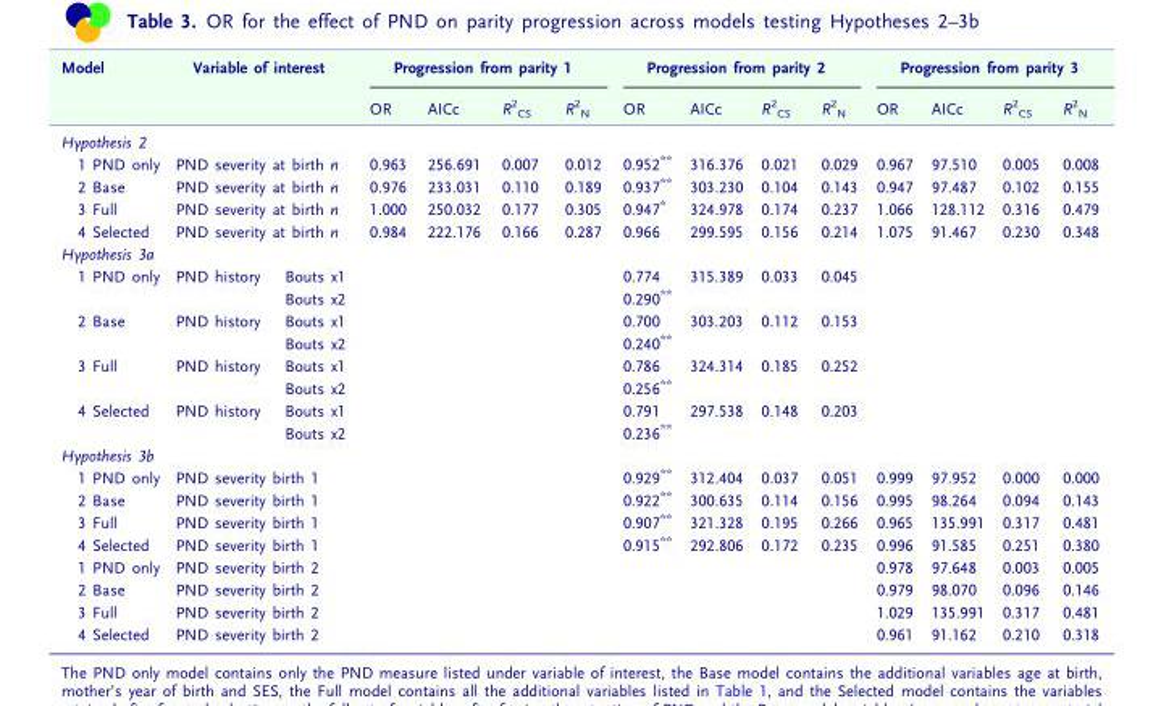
<table><thead><tr><td rowspan="2">Model</td><td rowspan="2" colspan="2">Variable of interest</td><td colspan="4">Progression from parity 1</td><td colspan="4">Progression from parity 2</td><td colspan="4">Progression from parity 3</td></tr><tr><td>OR</td><td>AICc</td><td>R<sup>2</sup> <sub>CS</sub></td><td>R<sup>2</sup> <sub>N</sub></td><td>OR</td><td>AICc</td><td>R<sup>2</sup> <sub>CS</sub></td><td>R<sup>2</sup> <sub>N</sub></td><td>OR</td><td>AICc</td><td>R<sup>2</sup> <sub>CS</sub></td><td>R<sup>2</sup> <sub>N</sub></td></tr></thead><tbody><tr><td colspan="15">Hypothesis 2</td></tr><tr><td>1 PND only</td><td colspan="2">PND severity at birth n</td><td>0.963</td><td>256.691</td><td>0.007</td><td>0.012</td><td>0.952**</td><td>316.376</td><td>0.021</td><td>0.029</td><td>0.967</td><td>97.510</td><td>0.005</td><td>0.008</td></tr><tr><td>2 Base</td><td colspan="2">PND severity at birth n</td><td>0.976</td><td>233.031</td><td>0.110</td><td>0.189</td><td>0.937**</td><td>303.230</td><td>0.104</td><td>0.143</td><td>0.947</td><td>97.487</td><td>0.102</td><td>0.155</td></tr><tr><td>3 Full</td><td colspan="2">PND severity at birth n</td><td>1.000</td><td>250.032</td><td>0.177</td><td>0.305</td><td>0.947*</td><td>324.978</td><td>0.174</td><td>0.237</td><td>1.066</td><td>128.112</td><td>0.316</td><td>0.479</td></tr><tr><td>4 Selected</td><td colspan="2">PND severity at birth n</td><td>0.984</td><td>222.176</td><td>0.166</td><td>0.287</td><td>0.966</td><td>299.595</td><td>0.156</td><td>0.214</td><td>1.075</td><td>91.467</td><td>0.230</td><td>0.348</td></tr><tr><td colspan="15">Hypothesis 3a</td></tr><tr><td rowspan="2">1 PND only</td><td rowspan="2">PND history</td><td>Bouts x1</td><td></td><td></td><td></td><td></td><td>0.774</td><td rowspan="2">315.389</td><td rowspan="2">0.033</td><td rowspan="2">0.045</td><td></td><td></td><td></td><td></td></tr><tr><td>Bouts x2</td><td></td><td></td><td></td><td></td><td>0.290**</td><td></td><td></td><td></td><td></td></tr><tr><td rowspan="2">2 Base</td><td rowspan="2">PND history</td><td>Bouts x1</td><td></td><td></td><td></td><td></td><td>0.700</td><td rowspan="2">303.203</td><td rowspan="2">0.112</td><td rowspan="2">0.153</td><td></td><td></td><td></td><td></td></tr><tr><td>Bouts x2</td><td></td><td></td><td></td><td></td><td>0.240**</td><td></td><td></td><td></td><td></td></tr><tr><td rowspan="2">3 Full</td><td rowspan="2">PND history</td><td>Bouts x1</td><td></td><td></td><td></td><td></td><td>0.786</td><td rowspan="2">324.314</td><td rowspan="2">0.185</td><td rowspan="2">0.252</td><td></td><td></td><td></td><td></td></tr><tr><td>Bouts x2</td><td></td><td></td><td></td><td></td><td>0.256**</td><td></td><td></td><td></td><td></td></tr><tr><td rowspan="2">4 Selected</td><td rowspan="2">PND history</td><td>Bouts x1</td><td></td><td></td><td></td><td></td><td>0.791</td><td rowspan="2">297.538</td><td rowspan="2">0.148</td><td rowspan="2">0.203</td><td></td><td></td><td></td><td></td></tr><tr><td>Bouts x2</td><td></td><td></td><td></td><td></td><td>0.236**</td><td></td><td></td><td></td><td></td></tr><tr><td colspan="15">Hypothesis 3b</td></tr><tr><td>1 PND only</td><td colspan="2">PND severity birth 1</td><td></td><td></td><td></td><td></td><td>0.929**</td><td>312.404</td><td>0.037</td><td>0.051</td><td>0.999</td><td>97.952</td><td>0.000</td><td>0.000</td></tr><tr><td>2 Base</td><td colspan="2">PND severity birth 1</td><td></td><td></td><td></td><td></td><td>0.922**</td><td>300.635</td><td>0.114</td><td>0.156</td><td>0.995</td><td>98.264</td><td>0.094</td><td>0.143</td></tr><tr><td>3 Full</td><td colspan="2">PND severity birth 1</td><td></td><td></td><td></td><td></td><td>0.907**</td><td>321.328</td><td>0.195</td><td>0.266</td><td>0.965</td><td>135.991</td><td>0.317</td><td>0.481</td></tr><tr><td>4 Selected</td><td colspan="2">PND severity birth 1</td><td></td><td></td><td></td><td></td><td>0.915**</td><td>292.806</td><td>0.172</td><td>0.235</td><td>0.996</td><td>91.585</td><td>0.251</td><td>0.380</td></tr><tr><td>1 PND only</td><td colspan="2">PND severity birth 2</td><td></td><td></td><td></td><td></td><td></td><td></td><td></td><td></td><td>0.978</td><td>97.648</td><td>0.003</td><td>0.005</td></tr><tr><td>2 Base</td><td colspan="2">PND severity birth 2</td><td></td><td></td><td></td><td></td><td></td><td></td><td></td><td></td><td>0.979</td><td>98.070</td><td>0.096</td><td>0.146</td></tr><tr><td>3 Full</td><td colspan="2">PND severity birth 2</td><td></td><td></td><td></td><td></td><td></td><td></td><td></td><td></td><td>1.029</td><td>135.991</td><td>0.317</td><td>0.481</td></tr><tr><td>4 Selected</td><td colspan="2">PND severity birth 2</td><td></td><td></td><td></td><td></td><td></td><td></td><td></td><td></td><td>0.961</td><td>91.162</td><td>0.210</td><td>0.318</td></tr></tbody></table>